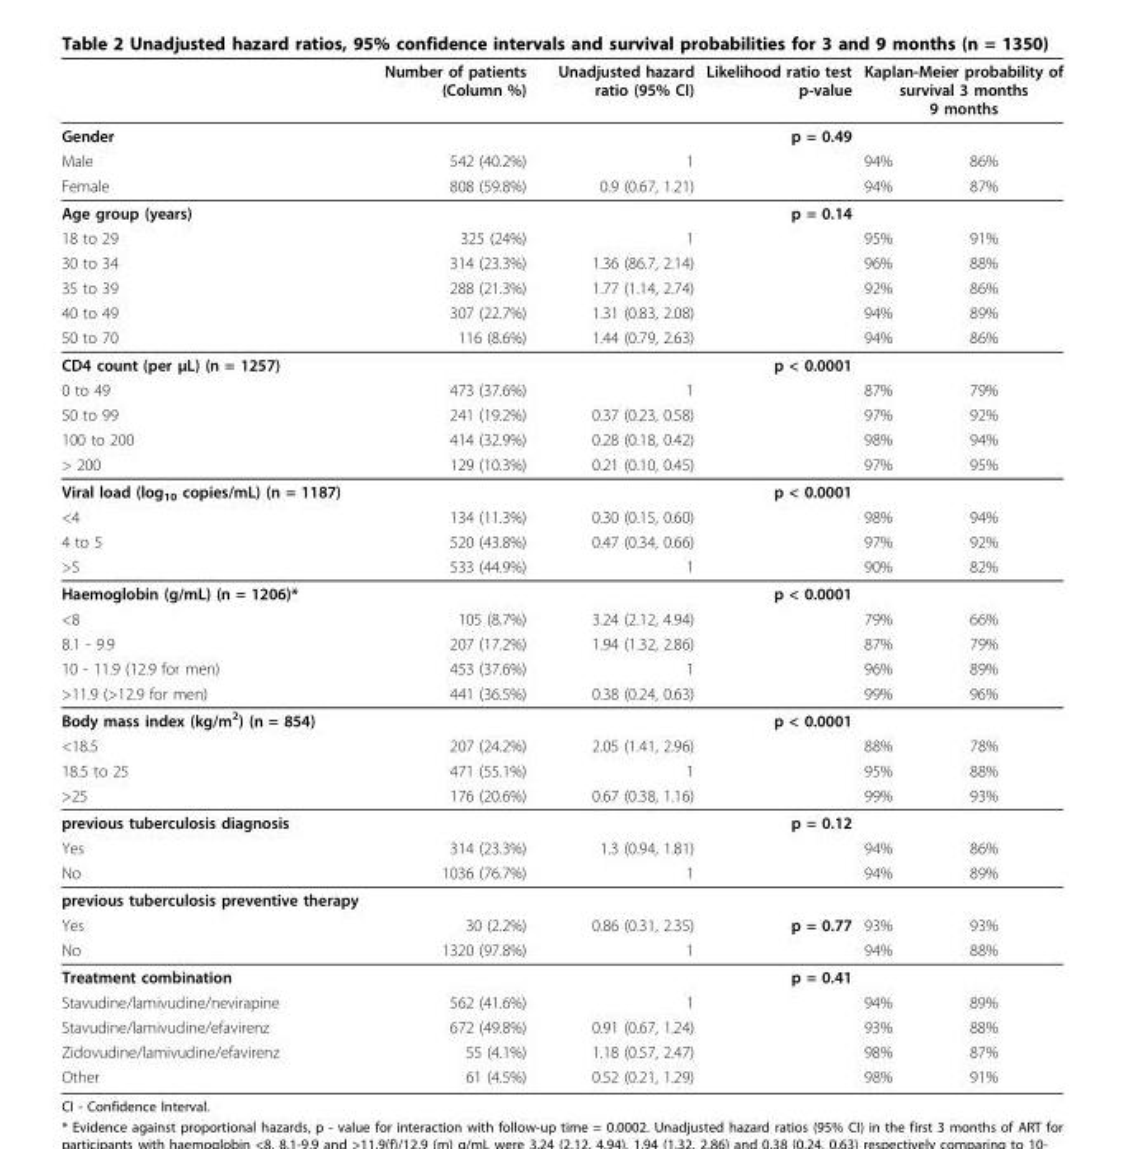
<table><thead><tr><td rowspan="2">Gender</td><td rowspan="2">Number of patients (Column %)</td><td rowspan="2">Unadjusted hazard ratio (95% CI)</td><td rowspan="2">Likelihood ratio test p-value p = 0.49</td><td colspan="2">Kaplan-Meier probability of survival 3 months 9 months</td></tr><tr><td></td><td></td></tr></thead><tbody><tr><td>Male</td><td>542 (40.2%)</td><td>1</td><td></td><td>94%</td><td>86%</td></tr><tr><td>Female</td><td>808 (59.8%)</td><td>0.9 (0.67, 1.21)</td><td></td><td>94%</td><td>87%</td></tr><tr><td>Age group (years)</td><td></td><td></td><td>p = 0.14</td><td></td><td></td></tr><tr><td>18 to 29</td><td>325 (24%)</td><td>1</td><td></td><td>95%</td><td>91%</td></tr><tr><td>30 to 34</td><td>314 (23.3%)</td><td>1.36 (86.7, 2.14)</td><td></td><td>96%</td><td>88%</td></tr><tr><td>35 to 39</td><td>288 (21.3%)</td><td>1.77 (1.14, 2.74)</td><td></td><td>92%</td><td>86%</td></tr><tr><td>40 to 49</td><td>307 (22.7%)</td><td>1.31 (0.83, 2.08)</td><td></td><td>94%</td><td>89%</td></tr><tr><td>50 to 70</td><td>116 (8.6%)</td><td>1.44 (0.79, 2.63)</td><td></td><td>94%</td><td>86%</td></tr><tr><td>CD4 count (per μL) (n = 1257)</td><td></td><td></td><td>p &lt; 0.0001</td><td></td><td></td></tr><tr><td>0 to 49</td><td>473 (37.6%)</td><td>1</td><td></td><td>87%</td><td>79%</td></tr><tr><td>50 to 99</td><td>241 (19.2%)</td><td>0.37 (0.23, 0.58)</td><td></td><td>97%</td><td>92%</td></tr><tr><td>100 to 200</td><td>414 (32.9%)</td><td>0.28 (0.18, 0.42)</td><td></td><td>98%</td><td>94%</td></tr><tr><td>&gt; 200</td><td>129 (10.3%)</td><td>0.21 (0.10, 0.45)</td><td></td><td>97%</td><td>95%</td></tr><tr><td>Viral load (log<sub>10</sub> copies/mL) (n = 1187)</td><td></td><td></td><td>p &lt; 0.0001</td><td></td><td></td></tr><tr><td>&lt;4</td><td>134 (11.3%)</td><td>0.30 (0.15, 0.60)</td><td></td><td>98%</td><td>94%</td></tr><tr><td>4 to 5</td><td>520 (43.8%)</td><td>0.47 (0.34, 0.66)</td><td></td><td>97%</td><td>92%</td></tr><tr><td>&gt;5</td><td>533 (44.9%)</td><td>1</td><td></td><td>90%</td><td>82%</td></tr><tr><td>Haemoglobin (g/mL) (n = 1206)*</td><td></td><td></td><td>p &lt; 0.0001</td><td></td><td></td></tr><tr><td>&lt;8</td><td>105 (8.7%)</td><td>3.24 (2.12, 4.94)</td><td></td><td>79%</td><td>66%</td></tr><tr><td>8.1 - 9.9</td><td>207 (17.2%)</td><td>1.94 (1.32, 2.86)</td><td></td><td>87%</td><td>79%</td></tr><tr><td>10 - 11.9 (12.9 for men)</td><td>453 (37.6%)</td><td>1</td><td></td><td>96%</td><td>89%</td></tr><tr><td>&gt;11.9 (&gt;12.9 for men)</td><td>441 (36.5%)</td><td>0.38 (0.24, 0.63)</td><td></td><td>99%</td><td>96%</td></tr><tr><td>Body mass index (kg/m<sup>2</sup>) (n = 854)</td><td></td><td></td><td>p &lt; 0.0001</td><td></td><td></td></tr><tr><td>&lt;18.5</td><td>207 (24.2%)</td><td>2.05 (1.41, 2.96)</td><td></td><td>88%</td><td>78%</td></tr><tr><td>18.5 to 25</td><td>471 (55.1%)</td><td>1</td><td></td><td>95%</td><td>88%</td></tr><tr><td>&gt;25</td><td>176 (20.6%)</td><td>0.67 (0.38, 1.16)</td><td></td><td>99%</td><td>93%</td></tr><tr><td>previous tuberculosis diagnosis</td><td></td><td></td><td>p = 0.12</td><td></td><td></td></tr><tr><td>Yes</td><td>314 (23.3%)</td><td>1.3 (0.94, 1.81)</td><td></td><td>94%</td><td>86%</td></tr><tr><td>No</td><td>1036 (76.7%)</td><td>1</td><td></td><td>94%</td><td>89%</td></tr><tr><td colspan="6">previous tuberculosis preventive therapy</td></tr><tr><td>Yes</td><td>30 (2.2%)</td><td>0.86 (0.31, 2.35)</td><td>p = 0.77</td><td>93%</td><td>93%</td></tr><tr><td>No</td><td>1320 (97.8%)</td><td>1</td><td></td><td>94%</td><td>88%</td></tr><tr><td>Treatment combination</td><td></td><td></td><td>p = 0.41</td><td></td><td></td></tr><tr><td>Stavudine/lamivudine/nevirapine</td><td>562 (41.6%)</td><td>1</td><td></td><td>94%</td><td>89%</td></tr><tr><td>Stavudine/lamivudine/efavirenz</td><td>672 (49.8%)</td><td>0.91 (0.67, 1.24)</td><td></td><td>93%</td><td>88%</td></tr><tr><td>Zidovudine/lamivudine/efavirenz</td><td>55 (4.1%)</td><td>1.18 (0.57, 2.47)</td><td></td><td>98%</td><td>87%</td></tr><tr><td>Other</td><td>61 (4.5%)</td><td>0.52 (0.21, 1.29)</td><td></td><td>98%</td><td>91%</td></tr></tbody></table>